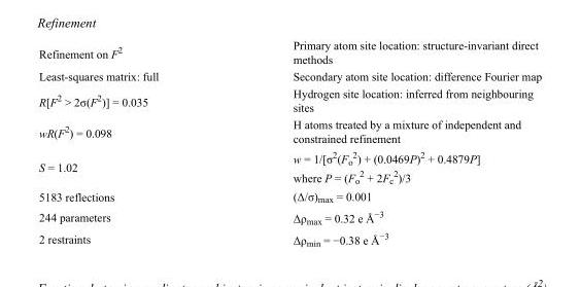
<table><tbody><tr><td>Refinement on F<sup>2</sup></td><td>Primary atom site location: structure-invariant direct methods</td></tr><tr><td>Least-squares matrix: full</td><td>Secondary atom site location: difference Fourier map</td></tr><tr><td>R[F<sup>2</sup> &gt; 2σ(F<sup>2</sup>)] = 0.035</td><td>Hydrogen site location: inferred from neighbouring sites</td></tr><tr><td>wR(F<sup>2</sup>) = 0.098</td><td>H atoms treated by a mixture of independent and constrained refinement</td></tr><tr><td>S = 1.02</td><td>w = 1/[σ<sup>2</sup>(F<sub>o</sub> <sup>2</sup>) + (0.0469P)<sup>2</sup> + 0.4879P] where P = (F<sub>o</sub> <sup>2</sup> + 2F<sub>c</sub> <sup>2</sup>)/3</td></tr><tr><td>5183 reflections</td><td>(Δ/σ)<sub>max</sub> = 0.001</td></tr><tr><td>244 parameters</td><td>Δρ<sub>max</sub> = 0.32 e Å<sup>−3</sup></td></tr><tr><td>2 restraints</td><td>Δρ<sub>min</sub> = −0.38 e Å<sup>−3</sup></td></tr></tbody></table>